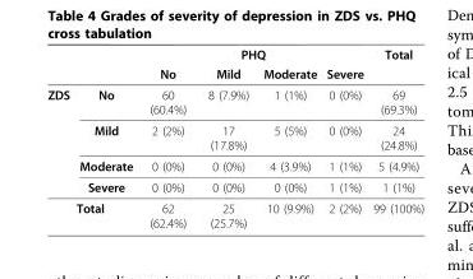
<table><thead><tr><td rowspan="2"></td><td rowspan="2"></td><td colspan="4">PHQ</td><td rowspan="2">Total</td></tr><tr><td>No</td><td>Mild</td><td>Moderate</td><td>Severe</td></tr></thead><tbody><tr><td rowspan="4">ZDS</td><td>No</td><td>60 (60.4%)</td><td>8 (7.9%)</td><td>1 (1%)</td><td>0 (0%)</td><td>69 (69.3%)</td></tr><tr><td>Mild</td><td>2 (2%)</td><td>17 (17.8%)</td><td>5 (5%)</td><td>0 (0%)</td><td>24 (24.8%)</td></tr><tr><td>Moderate</td><td>0 (0%)</td><td>0 (0%)</td><td>4 (3.9%)</td><td>1 (1%)</td><td>5 (4.9%)</td></tr><tr><td>Severe</td><td>0 (0%)</td><td>0 (0%)</td><td>0 (0%)</td><td>1 (1%)</td><td>1 (1%)</td></tr><tr><td colspan="2">Total</td><td>62 (62.4%)</td><td>25 (25.7%)</td><td>10 (9.9%)</td><td>2 (2%)</td><td>99 (100%)</td></tr></tbody></table>